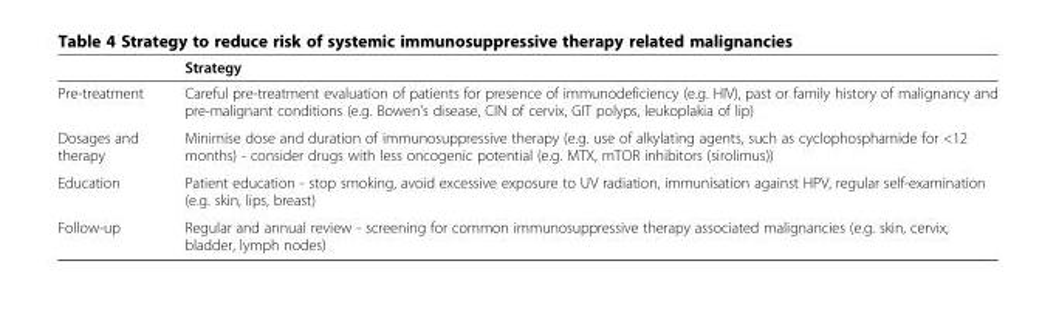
<table><thead><tr><td></td><td>Strategy</td></tr></thead><tbody><tr><td>Pre-treatment</td><td>Careful pre-treatment evaluation of patients for presence of immunodeficiency (e.g. HIV), past or family history of malignancy and pre-malignant conditions (e.g. Bowen&#x27;s disease, CIN of cervix, GIT polyps, leukoplakia of lip)</td></tr><tr><td>Dosages and therapy</td><td>Minimise dose and duration of immunosuppressive therapy (e.g. use of alkylating agents, such as cyclophosphamide for &lt;12 months) - consider drugs with less oncogenic potential (e.g. MTX, mTOR inhibitors (sirolimus))</td></tr><tr><td>Education</td><td>Patient education - stop smoking, avoid excessive exposure to UV radiation, immunisation against HPV, regular self-examination (e.g. skin, lips, breast)</td></tr><tr><td>Follow-up</td><td>Regular and annual review - screening for common immunosuppressive therapy associated malignancies (e.g. skin, cervix, bladder, lymph nodes)</td></tr></tbody></table>